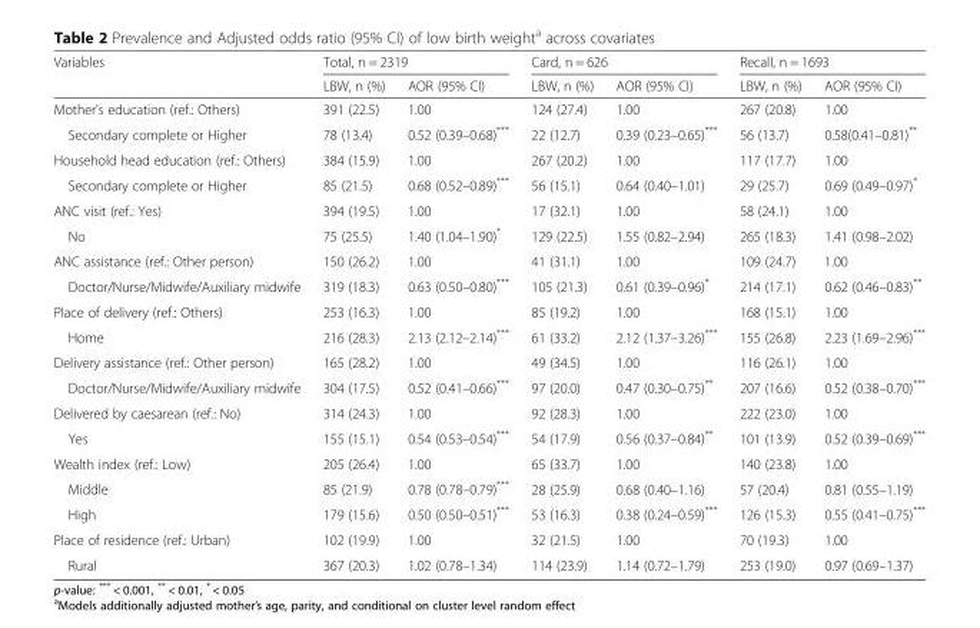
<table><thead><tr><td rowspan="2">Variables</td><td colspan="2">Total, n = 2319</td><td colspan="2">Card, n = 626</td><td colspan="2">Recall, n = 1693</td></tr><tr><td>LBW, n (%)</td><td>AOR (95% CI)</td><td>LBW, n (%)</td><td>AOR (95% CI)</td><td>LBW, n (%)</td><td>AOR (95% CI)</td></tr></thead><tbody><tr><td>Mother&#x27;s education (ref.: Others)</td><td>391 (22.5)</td><td>1.00</td><td>124 (27.4)</td><td>1.00</td><td>267 (20.8)</td><td>1.00</td></tr><tr><td>Secondary complete or Higher</td><td>78 (13.4)</td><td>0.52 (0.39–0.68)***</td><td>22 (12.7)</td><td>0.39 (0.23–0.65)***</td><td>56 (13.7)</td><td>0.58(0.41–0.81)**</td></tr><tr><td>Household head education (ref.: Others)</td><td>384 (15.9)</td><td>1.00</td><td>267 (20.2)</td><td>1.00</td><td>117 (17.7)</td><td>1.00</td></tr><tr><td>Secondary complete or Higher</td><td>85 (21.5)</td><td>0.68 (0.52–0.89)***</td><td>56 (15.1)</td><td>0.64 (0.40–1.01)</td><td>29 (25.7)</td><td>0.69 (0.49–0.97)*</td></tr><tr><td>ANC visit (ref.: Yes)</td><td>394 (19.5)</td><td>1.00</td><td>17 (32.1)</td><td>1.00</td><td>58 (24.1)</td><td>1.00</td></tr><tr><td>No</td><td>75 (25.5)</td><td>1.40 (1.04–1.90)*</td><td>129 (22.5)</td><td>1.55 (0.82–2.94)</td><td>265 (18.3)</td><td>1.41 (0.98–2.02)</td></tr><tr><td>ANC assistance (ref.: Other person)</td><td>150 (26.2)</td><td>1.00</td><td>41 (31.1)</td><td>1.00</td><td>109 (24.7)</td><td>1.00</td></tr><tr><td>Doctor/Nurse/Midwife/Auxiliary midwife</td><td>319 (18.3)</td><td>0.63 (0.50–0.80)***</td><td>105 (21.3)</td><td>0.61 (0.39–0.96)*</td><td>214 (17.1)</td><td>0.62 (0.46–0.83)**</td></tr><tr><td>Place of delivery (ref.: Others)</td><td>253 (16.3)</td><td>1.00</td><td>85 (19.2)</td><td>1.00</td><td>168 (15.1)</td><td>1.00</td></tr><tr><td>Home</td><td>216 (28.3)</td><td>2.13 (2.12–2.14)***</td><td>61 (33.2)</td><td>2.12 (1.37–3.26)***</td><td>155 (26.8)</td><td>2.23 (1.69–2.96)***</td></tr><tr><td>Delivery assistance (ref.: Other person)</td><td>165 (28.2)</td><td>1.00</td><td>49 (34.5)</td><td>1.00</td><td>116 (26.1)</td><td>1.00</td></tr><tr><td>Doctor/Nurse/Midwife/Auxiliary midwife</td><td>304 (17.5)</td><td>0.52 (0.41–0.66)***</td><td>97 (20.0)</td><td>0.47 (0.30–0.75)**</td><td>207 (16.6)</td><td>0.52 (0.38–0.70)***</td></tr><tr><td>Delivered by caesarean (ref.: No)</td><td>314 (24.3)</td><td>1.00</td><td>92 (28.3)</td><td>1.00</td><td>222 (23.0)</td><td>1.00</td></tr><tr><td>Yes</td><td>155 (15.1)</td><td>0.54 (0.53–0.54)***</td><td>54 (17.9)</td><td>0.56 (0.37–0.84)**</td><td>101 (13.9)</td><td>0.52 (0.39–0.69)***</td></tr><tr><td>Wealth index (ref.: Low)</td><td>205 (26.4)</td><td>1.00</td><td>65 (33.7)</td><td>1.00</td><td>140 (23.8)</td><td>1.00</td></tr><tr><td>Middle</td><td>85 (21.9)</td><td>0.78 (0.78–0.79)***</td><td>28 (25.9)</td><td>0.68 (0.40–1.16)</td><td>57 (20.4)</td><td>0.81 (0.55–1.19)</td></tr><tr><td>High</td><td>179 (15.6)</td><td>0.50 (0.50–0.51)***</td><td>53 (16.3)</td><td>0.38 (0.24–0.59)***</td><td>126 (15.3)</td><td>0.55 (0.41–0.75)***</td></tr><tr><td>Place of residence (ref.: Urban)</td><td>102 (19.9)</td><td>1.00</td><td>32 (21.5)</td><td>1.00</td><td>70 (19.3)</td><td>1.00</td></tr><tr><td>Rural</td><td>367 (20.3)</td><td>1.02 (0.78–1.34)</td><td>114 (23.9)</td><td>1.14 (0.72–1.79)</td><td>253 (19.0)</td><td>0.97 (0.69–1.37)</td></tr></tbody></table>